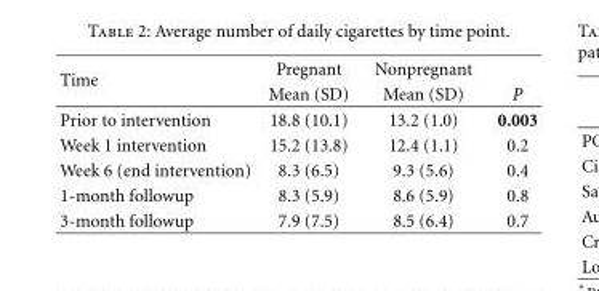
<table><thead><tr><td rowspan="2">Time</td><td rowspan="2">Pregnant Mean (SD)</td><td rowspan="2">Nonpregnant Mean (SD)</td><td rowspan="2">P</td></tr><tr></tr></thead><tbody><tr><td>Prior to intervention</td><td>18.8 (10.1)</td><td>13.2 (1.0)</td><td>0.003</td></tr><tr><td>Week 1 intervention</td><td>15.2 (13.8)</td><td>12.4 (1.1)</td><td>0.2</td></tr><tr><td>Week 6 (end intervention)</td><td>8.3 (6.5)</td><td>9.3 (5.6)</td><td>0.4</td></tr><tr><td>1-month followup</td><td>8.3 (5.9)</td><td>8.6 (5.9)</td><td>0.8</td></tr><tr><td>3-month followup</td><td>7.9 (7.5)</td><td>8.5 (6.4)</td><td>0.7</td></tr></tbody></table>